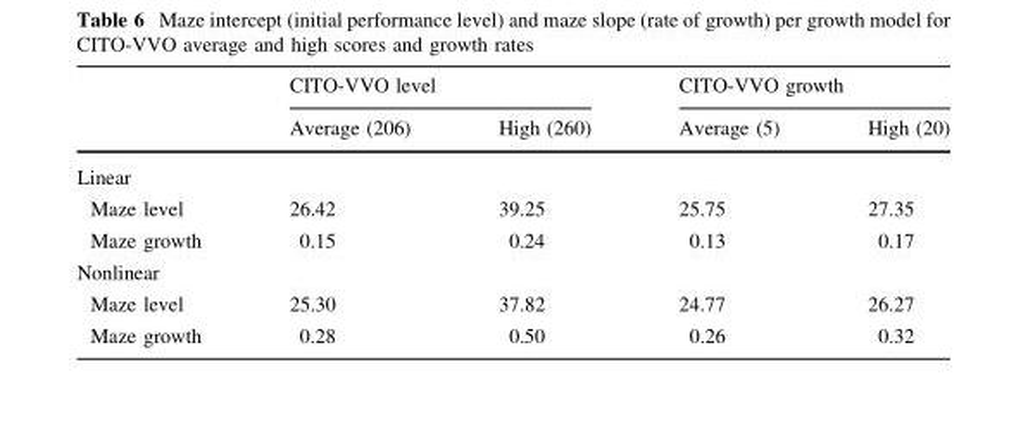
<table><thead><tr><td rowspan="2"></td><td colspan="2">CITO-VVO level</td><td colspan="2">CITO-VVO growth</td></tr><tr><td>Average (206)</td><td>High (260)</td><td>Average (5)</td><td>High (20)</td></tr></thead><tbody><tr><td colspan="5">Linear</td></tr><tr><td>Maze level</td><td>26.42</td><td>39.25</td><td>25.75</td><td>27.35</td></tr><tr><td>Maze growth</td><td>0.15</td><td>0.24</td><td>0.13</td><td>0.17</td></tr><tr><td colspan="5">Nonlinear</td></tr><tr><td>Maze level</td><td>25.30</td><td>37.82</td><td>24.77</td><td>26.27</td></tr><tr><td>Maze growth</td><td>0.28</td><td>0.50</td><td>0.26</td><td>0.32</td></tr></tbody></table>